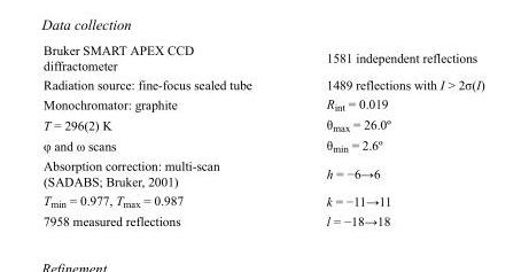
<table><tbody><tr><td>Bruker SMART APEX CCD diffractometer</td><td>1581 independent reflections</td></tr><tr><td>Radiation source: fine-focus sealed tube</td><td>1489 reflections with I &gt; 2σ(I)</td></tr><tr><td>Monochromator: graphite</td><td>R<sub>int</sub> = 0.019</td></tr><tr><td>T = 296(2) K</td><td>θ<sub>max</sub> = 26.0º</td></tr><tr><td>φ and ω scans</td><td>θ<sub>min</sub> = 2.6º</td></tr><tr><td>Absorption correction: multi-scan (SADABS; Bruker, 2001)</td><td>h = −6→6</td></tr><tr><td>T<sub>min</sub> = 0.977, T<sub>max</sub> = 0.987</td><td>k = −11→11</td></tr><tr><td>7958 measured reflections</td><td>l = −18→18</td></tr></tbody></table>